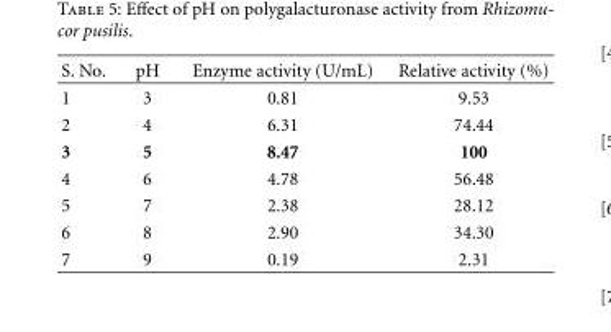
<table><thead><tr><td>S. No.</td><td>pH</td><td>Enzyme activity (U/mL)</td><td>Relative activity (%)</td></tr></thead><tbody><tr><td>1</td><td>3</td><td>0.81</td><td>9.53</td></tr><tr><td>2</td><td>4</td><td>6.31</td><td>74.44</td></tr><tr><td>3</td><td>5</td><td>8.47</td><td>100</td></tr><tr><td>4</td><td>6</td><td>4.78</td><td>56.48</td></tr><tr><td>5</td><td>7</td><td>2.38</td><td>28.12</td></tr><tr><td>6</td><td>8</td><td>2.90</td><td>34.30</td></tr><tr><td>7</td><td>9</td><td>0.19</td><td>2.31</td></tr></tbody></table>